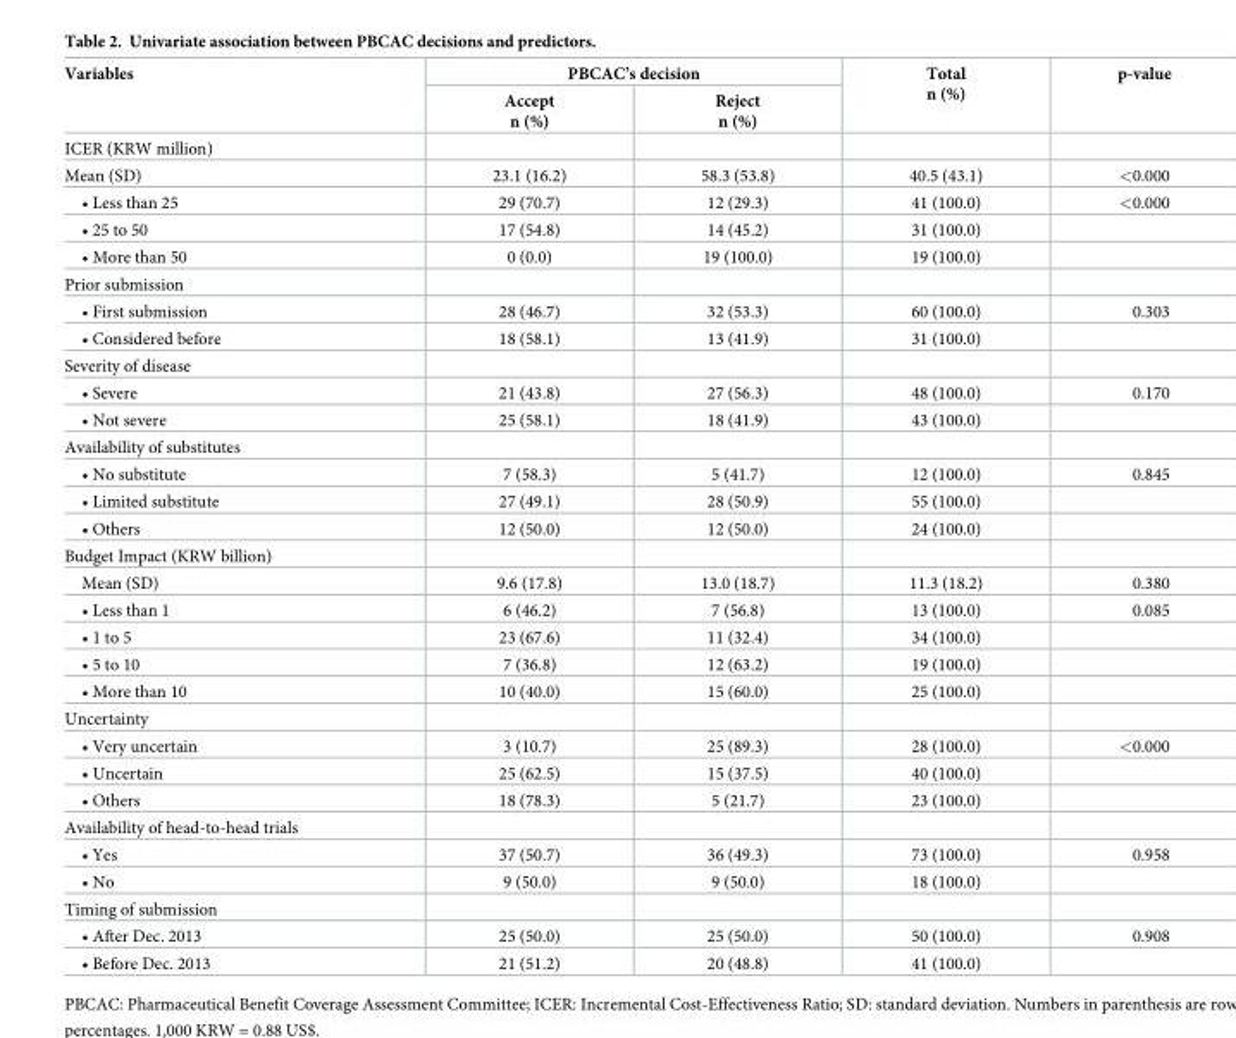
<table><thead><tr><td rowspan="2">Variables</td><td colspan="2">PBCAC’s decision</td><td rowspan="2">Total n (%)</td><td rowspan="2">p-value</td></tr><tr><td>Accept n (%)</td><td>Reject n (%)</td></tr></thead><tbody><tr><td colspan="5">ICER (KRW million)</td></tr><tr><td>Mean (SD)</td><td>23.1 (16.2)</td><td>58.3 (53.8)</td><td>40.5 (43.1)</td><td>&lt;0.000</td></tr><tr><td>• Less than 25</td><td>29 (70.7)</td><td>12 (29.3)</td><td>41 (100.0)</td><td>&lt;0.000</td></tr><tr><td>• 25 to 50</td><td>17 (54.8)</td><td>14 (45.2)</td><td>31 (100.0)</td><td></td></tr><tr><td>• More than 50</td><td>0 (0.0)</td><td>19 (100.0)</td><td>19 (100.0)</td><td></td></tr><tr><td colspan="5">Prior submission</td></tr><tr><td>• First submission</td><td>28 (46.7)</td><td>32 (53.3)</td><td>60 (100.0)</td><td>0.303</td></tr><tr><td>• Considered before</td><td>18 (58.1)</td><td>13 (41.9)</td><td>31 (100.0)</td><td></td></tr><tr><td colspan="5">Severity of disease</td></tr><tr><td>• Severe</td><td>21 (43.8)</td><td>27 (56.3)</td><td>48 (100.0)</td><td>0.170</td></tr><tr><td>• Not severe</td><td>25 (58.1)</td><td>18 (41.9)</td><td>43 (100.0)</td><td></td></tr><tr><td colspan="5">Availability of substitutes</td></tr><tr><td>• No substitute</td><td>7 (58.3)</td><td>5 (41.7)</td><td>12 (100.0)</td><td>0.845</td></tr><tr><td>• Limited substitute</td><td>27 (49.1)</td><td>28 (50.9)</td><td>55 (100.0)</td><td></td></tr><tr><td>• Others</td><td>12 (50.0)</td><td>12 (50.0)</td><td>24 (100.0)</td><td></td></tr><tr><td colspan="5">Budget Impact (KRW billion)</td></tr><tr><td>Mean (SD)</td><td>9.6 (17.8)</td><td>13.0 (18.7)</td><td>11.3 (18.2)</td><td>0.380</td></tr><tr><td>• Less than 1</td><td>6 (46.2)</td><td>7 (56.8)</td><td>13 (100.0)</td><td>0.085</td></tr><tr><td>• 1 to 5</td><td>23 (67.6)</td><td>11 (32.4)</td><td>34 (100.0)</td><td></td></tr><tr><td>• 5 to 10</td><td>7 (36.8)</td><td>12 (63.2)</td><td>19 (100.0)</td><td></td></tr><tr><td>• More than 10</td><td>10 (40.0)</td><td>15 (60.0)</td><td>25 (100.0)</td><td></td></tr><tr><td colspan="5">Uncertainty</td></tr><tr><td>• Very uncertain</td><td>3 (10.7)</td><td>25 (89.3)</td><td>28 (100.0)</td><td>&lt;0.000</td></tr><tr><td>• Uncertain</td><td>25 (62.5)</td><td>15 (37.5)</td><td>40 (100.0)</td><td></td></tr><tr><td>• Others</td><td>18 (78.3)</td><td>5 (21.7)</td><td>23 (100.0)</td><td></td></tr><tr><td colspan="5">Availability of head-to-head trials</td></tr><tr><td>• Yes</td><td>37 (50.7)</td><td>36 (49.3)</td><td>73 (100.0)</td><td>0.958</td></tr><tr><td>• No</td><td>9 (50.0)</td><td>9 (50.0)</td><td>18 (100.0)</td><td></td></tr><tr><td colspan="5">Timing of submission</td></tr><tr><td>• After Dec. 2013</td><td>25 (50.0)</td><td>25 (50.0)</td><td>50 (100.0)</td><td>0.908</td></tr><tr><td>• Before Dec. 2013</td><td>21 (51.2)</td><td>20 (48.8)</td><td>41 (100.0)</td><td></td></tr></tbody></table>